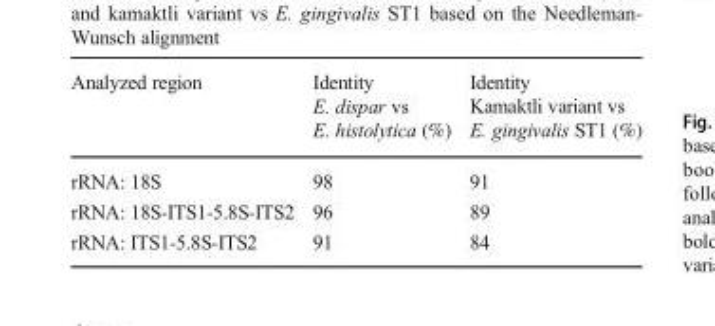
<table><thead><tr><td>Analyzed region</td><td>Identity E. dispar vs E. histolytica (%)</td><td>Identity Kamaktli variant vs E. gingivalis ST1 (%)</td></tr></thead><tbody><tr><td>rRNA: 18S</td><td>98</td><td>91</td></tr><tr><td>rRNA: 18S-ITS1-5.8S-ITS2</td><td>96</td><td>89</td></tr><tr><td>rRNA: ITS1-5.8S-ITS2</td><td>91</td><td>84</td></tr></tbody></table>